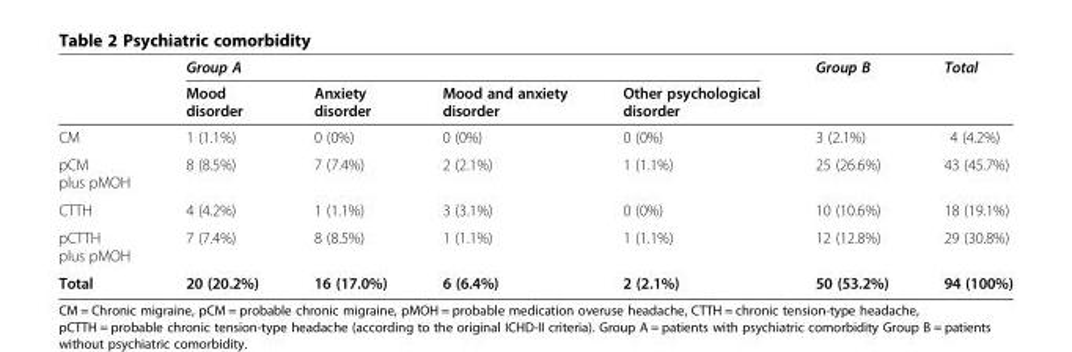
<table><thead><tr><td rowspan="2"></td><td colspan="4">Group A</td><td rowspan="2">Group B</td><td rowspan="2">Total</td></tr><tr><td>Mood disorder</td><td>Anxiety disorder</td><td>Mood and anxiety disorder</td><td>Other psychological disorder</td></tr></thead><tbody><tr><td>CM</td><td>1 (1.1%)</td><td>0 (0%)</td><td>0 (0%)</td><td>0 (0%)</td><td>3 (2.1%)</td><td>4 (4.2%)</td></tr><tr><td>pCM plus pMOH</td><td>8 (8.5%)</td><td>7 (7.4%)</td><td>2 (2.1%)</td><td>1 (1.1%)</td><td>25 (26.6%)</td><td>43 (45.7%)</td></tr><tr><td>CTTH</td><td>4 (4.2%)</td><td>1 (1.1%)</td><td>3 (3.1%)</td><td>0 (0%)</td><td>10 (10.6%)</td><td>18 (19.1%)</td></tr><tr><td>pCTTH plus pMOH</td><td>7 (7.4%)</td><td>8 (8.5%)</td><td>1 (1.1%)</td><td>1 (1.1%)</td><td>12 (12.8%)</td><td>29 (30.8%)</td></tr><tr><td>Total</td><td>20 (20.2%)</td><td>16 (17.0%)</td><td>6 (6.4%)</td><td>2 (2.1%)</td><td>50 (53.2%)</td><td>94 (100%)</td></tr></tbody></table>